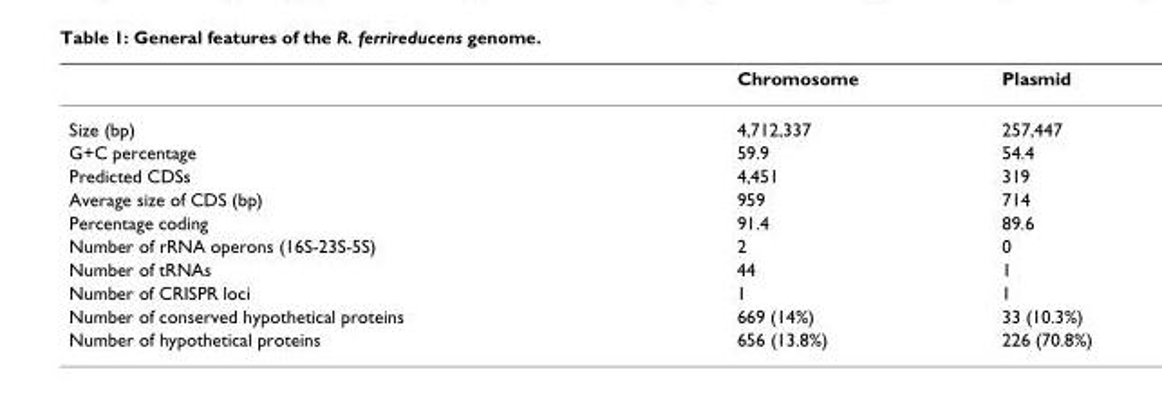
<table><thead><tr><td></td><td>Chromosome</td><td>Plasmid</td></tr></thead><tbody><tr><td>Size (bp)</td><td>4,712,337</td><td>257,447</td></tr><tr><td>G+C percentage</td><td>59.9</td><td>54.4</td></tr><tr><td>Predicted CDSs</td><td>4,451</td><td>319</td></tr><tr><td>Average size of CDS (bp)</td><td>959</td><td>714</td></tr><tr><td>Percentage coding</td><td>91.4</td><td>89.6</td></tr><tr><td>Number of rRNA operons (16S-23S-5S)</td><td>2</td><td>0</td></tr><tr><td>Number of tRNAs</td><td>44</td><td>1</td></tr><tr><td>Number of CRISPR loci</td><td>1</td><td>1</td></tr><tr><td>Number of conserved hypothetical proteins</td><td>669 (14%)</td><td>33 (10.3%)</td></tr><tr><td>Number of hypothetical proteins</td><td>656 (13.8%)</td><td>226 (70.8%)</td></tr></tbody></table>